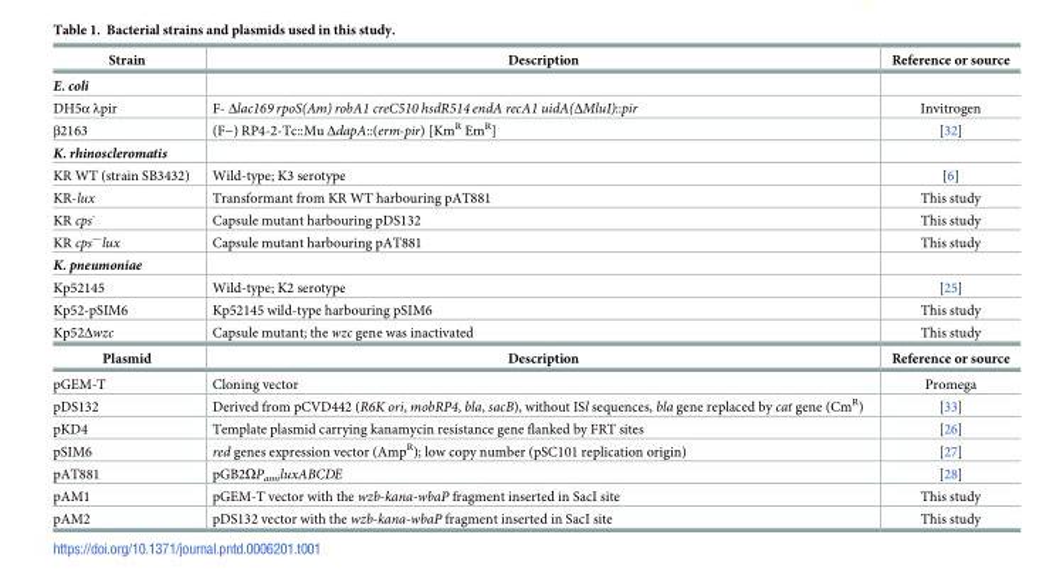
<table><tbody><tr><td>Strain</td><td>Description</td><td>Reference or source</td></tr><tr><td colspan="3">E. coli</td></tr><tr><td>DH5α λpir</td><td>F- Δlac169 rpoS(Am) robA1 creC510 hsdR514 endA recA1 uidA(ΔMluI)::pir</td><td>Invitrogen</td></tr><tr><td>β2163</td><td>(F−) RP4-2-Tc::Mu ΔdapA::(erm-pir) [Km<sup>R</sup> Em<sup>R</sup>]</td><td>[32]</td></tr><tr><td colspan="3">K. rhinoscleromatis</td></tr><tr><td>KR WT (strain SB3432)</td><td>Wild-type; K3 serotype</td><td>[6]</td></tr><tr><td>KR-lux</td><td>Transformant from KR WT harbouring pAT881</td><td>This study</td></tr><tr><td>KR cps<sup>-</sup></td><td>Capsule mutant harbouring pDS132</td><td>This study</td></tr><tr><td>KR cps<sup>—</sup>lux</td><td>Capsule mutant harbouring pAT881</td><td>This study</td></tr><tr><td colspan="3">K. pneumoniae</td></tr><tr><td>Kp52145</td><td>Wild-type; K2 serotype</td><td>[25]</td></tr><tr><td>Kp52-pSIM6</td><td>Kp52145 wild-type harbouring pSIM6</td><td>This study</td></tr><tr><td>Kp52Δwzc</td><td>Capsule mutant; the wzc gene was inactivated</td><td>This study</td></tr><tr><td>Plasmid</td><td>Description</td><td>Reference or source</td></tr><tr><td>pGEM-T</td><td>Cloning vector</td><td>Promega</td></tr><tr><td>pDS132</td><td>Derived from pCVD442 (R6K ori, mobRP4, bla, sacB), without ISl sequences, bla gene replaced by cat gene (Cm<sup>R</sup>)</td><td>[33]</td></tr><tr><td>pKD4</td><td>Template plasmid carrying kanamycin resistance gene flanked by FRT sites</td><td>[26]</td></tr><tr><td>pSIM6</td><td>red genes expression vector (Amp<sup>R</sup>); low copy number (pSC101 replication origin)</td><td>[27]</td></tr><tr><td>pAT881</td><td>pGB2ΩP<sub>ami</sub>luxABCDE</td><td>[28]</td></tr><tr><td>pAM1</td><td>pGEM-T vector with the wzb-kana-wbaP fragment inserted in SacI site</td><td>This study</td></tr><tr><td>pAM2</td><td>pDS132 vector with the wzb-kana-wbaP fragment inserted in SacI site</td><td>This study</td></tr></tbody></table>